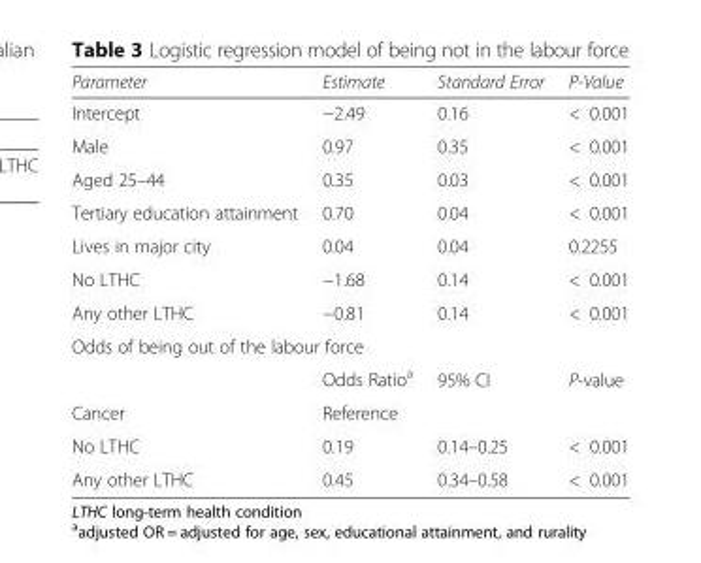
<table><thead><tr><td>Parameter</td><td>Estimate</td><td>Standard Error</td><td>P-Value</td></tr></thead><tbody><tr><td>Intercept</td><td>−2.49</td><td>0.16</td><td>&lt; 0.001</td></tr><tr><td>Male</td><td>0.97</td><td>0.35</td><td>&lt; 0.001</td></tr><tr><td>Aged 25–44</td><td>0.35</td><td>0.03</td><td>&lt; 0.001</td></tr><tr><td>Tertiary education attainment</td><td>0.70</td><td>0.04</td><td>&lt; 0.001</td></tr><tr><td>Lives in major city</td><td>0.04</td><td>0.04</td><td>0.2255</td></tr><tr><td>No LTHC</td><td>−1.68</td><td>0.14</td><td>&lt; 0.001</td></tr><tr><td>Any other LTHC</td><td>−0.81</td><td>0.14</td><td>&lt; 0.001</td></tr><tr><td colspan="4">Odds of being out of the labour force</td></tr><tr><td></td><td>Odds Ratio<sup>a</sup></td><td>95% CI</td><td>P-value</td></tr><tr><td>Cancer</td><td colspan="3">Reference</td></tr><tr><td>No LTHC</td><td>0.19</td><td>0.14–0.25</td><td>&lt; 0.001</td></tr><tr><td>Any other LTHC</td><td>0.45</td><td>0.34–0.58</td><td>&lt; 0.001</td></tr></tbody></table>